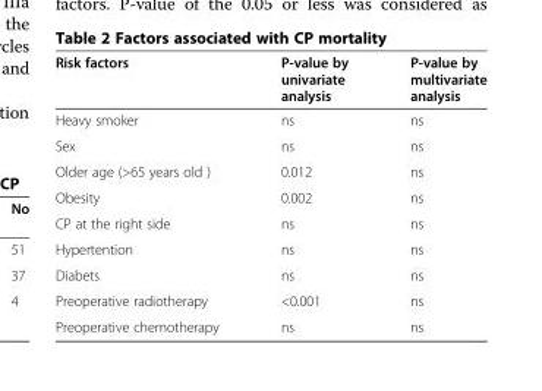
<table><thead><tr><td>Risk factors</td><td>P-value by univariate analysis</td><td>P-value by multivariate analysis</td></tr></thead><tbody><tr><td>Heavy smoker</td><td>ns</td><td>ns</td></tr><tr><td>Sex</td><td>ns</td><td>ns</td></tr><tr><td>Older age (&gt;65 years old )</td><td>0.012</td><td>ns</td></tr><tr><td>Obesity</td><td>0.002</td><td>ns</td></tr><tr><td>CP at the right side</td><td>ns</td><td>ns</td></tr><tr><td>Hypertention</td><td>ns</td><td>ns</td></tr><tr><td>Diabets</td><td>ns</td><td>ns</td></tr><tr><td>Preoperative radiotherapy</td><td>&lt;0.001</td><td>ns</td></tr><tr><td>Preoperative chemotherapy</td><td>ns</td><td>ns</td></tr></tbody></table>